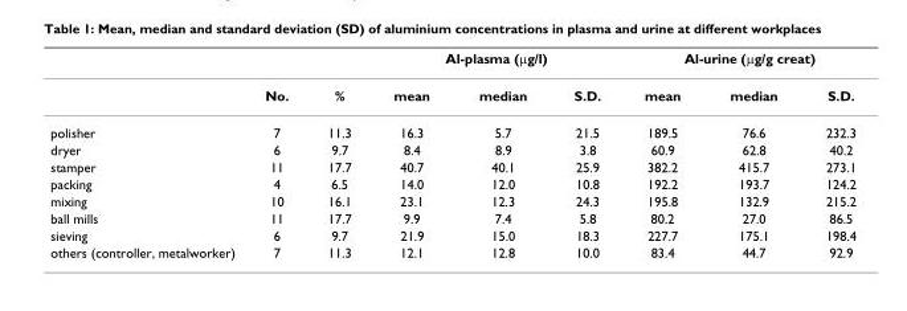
<table><thead><tr><td rowspan="2"></td><td rowspan="2">No.</td><td rowspan="2">%</td><td colspan="3">Al-plasma (µg/l)</td><td colspan="3">Al-urine (µg/g creat)</td></tr><tr><td>mean</td><td>median</td><td>S.D.</td><td>mean</td><td>median</td><td>S.D.</td></tr></thead><tbody><tr><td>polisher</td><td>7</td><td>11.3</td><td>16.3</td><td>5.7</td><td>21.5</td><td>189.5</td><td>76.6</td><td>232.3</td></tr><tr><td>dryer</td><td>6</td><td>9.7</td><td>8.4</td><td>8.9</td><td>3.8</td><td>60.9</td><td>62.8</td><td>40.2</td></tr><tr><td>stamper</td><td>11</td><td>17.7</td><td>40.7</td><td>40.1</td><td>25.9</td><td>382.2</td><td>415.7</td><td>273.1</td></tr><tr><td>packing</td><td>4</td><td>6.5</td><td>14.0</td><td>12.0</td><td>10.8</td><td>192.2</td><td>193.7</td><td>124.2</td></tr><tr><td>mixing</td><td>10</td><td>16.1</td><td>23.1</td><td>12.3</td><td>24.3</td><td>195.8</td><td>132.9</td><td>215.2</td></tr><tr><td>ball mills</td><td>11</td><td>17.7</td><td>9.9</td><td>7.4</td><td>5.8</td><td>80.2</td><td>27.0</td><td>86.5</td></tr><tr><td>sieving</td><td>6</td><td>9.7</td><td>21.9</td><td>15.0</td><td>18.3</td><td>227.7</td><td>175.1</td><td>198.4</td></tr><tr><td>others (controller, metalworker)</td><td>7</td><td>11.3</td><td>12.1</td><td>12.8</td><td>10.0</td><td>83.4</td><td>44.7</td><td>92.9</td></tr></tbody></table>